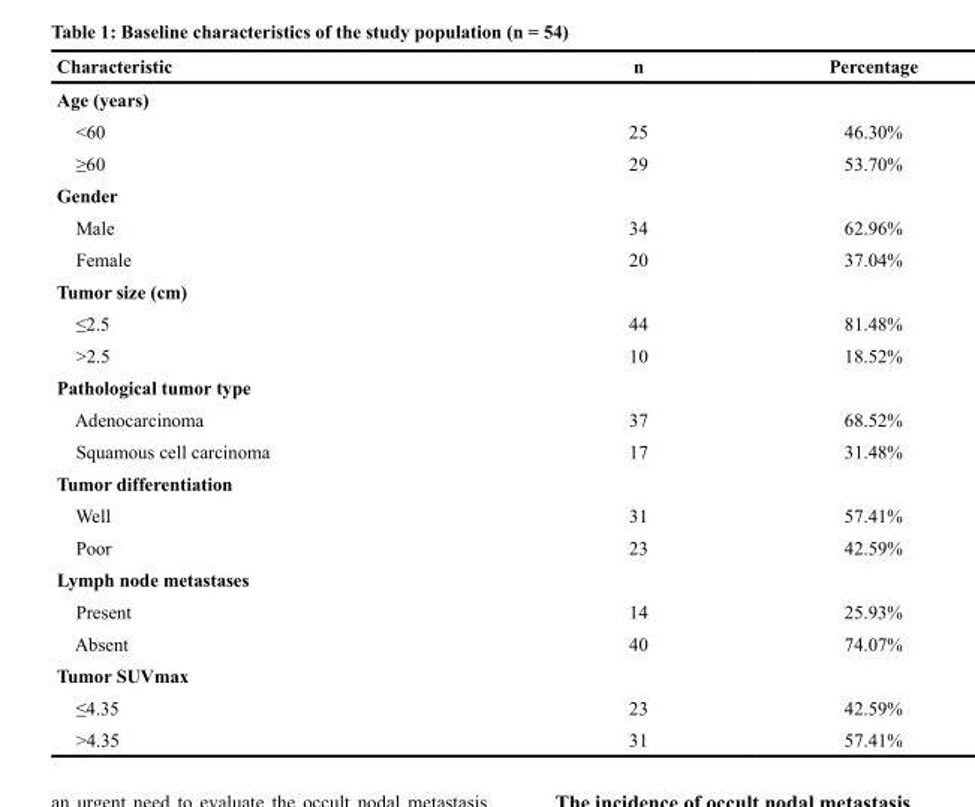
<table><thead><tr><td>Characteristic</td><td>n</td><td>Percentage</td></tr></thead><tbody><tr><td colspan="3">Age (years)</td></tr><tr><td>&lt;60</td><td>25</td><td>46.30%</td></tr><tr><td>≥60</td><td>29</td><td>53.70%</td></tr><tr><td colspan="3">Gender</td></tr><tr><td>Male</td><td>34</td><td>62.96%</td></tr><tr><td>Female</td><td>20</td><td>37.04%</td></tr><tr><td colspan="3">Tumor size (cm)</td></tr><tr><td>≤2.5</td><td>44</td><td>81.48%</td></tr><tr><td>&gt;2.5</td><td>10</td><td>18.52%</td></tr><tr><td colspan="3">Pathological tumor type</td></tr><tr><td>Adenocarcinoma</td><td>37</td><td>68.52%</td></tr><tr><td>Squamous cell carcinoma</td><td>17</td><td>31.48%</td></tr><tr><td colspan="3">Tumor differentiation</td></tr><tr><td>Well</td><td>31</td><td>57.41%</td></tr><tr><td>Poor</td><td>23</td><td>42.59%</td></tr><tr><td colspan="3">Lymph node metastases</td></tr><tr><td>Present</td><td>14</td><td>25.93%</td></tr><tr><td>Absent</td><td>40</td><td>74.07%</td></tr><tr><td colspan="3">Tumor SUVmax</td></tr><tr><td>≤4.35</td><td>23</td><td>42.59%</td></tr><tr><td>&gt;4.35</td><td>31</td><td>57.41%</td></tr></tbody></table>